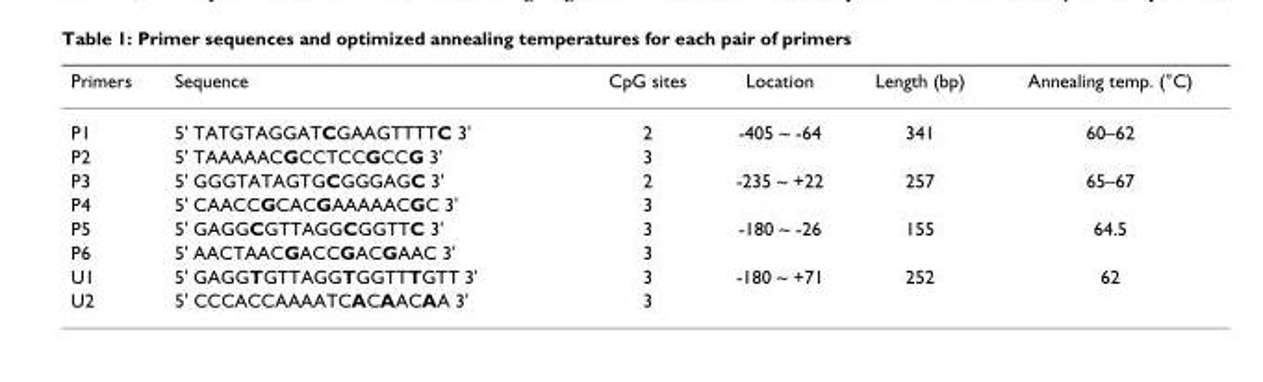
<table><thead><tr><td>Primers</td><td>Sequence</td><td>CpG sites</td><td>Location</td><td>Length (bp)</td><td>Annealing temp. (°C)</td></tr></thead><tbody><tr><td>P1</td><td>5&#x27; TATGTAGGATCGAAGTTTTC 3&#x27;</td><td>2</td><td>-405 ~ -64</td><td>341</td><td>60–62</td></tr><tr><td>P2</td><td>5&#x27; TAAAAACGCCTCCGCCG 3&#x27;</td><td>3</td><td></td><td></td><td></td></tr><tr><td>P3</td><td>5&#x27; GGGTATAGTGCGGGAGC 3&#x27;</td><td>2</td><td>-235 ~ +22</td><td>257</td><td>65–67</td></tr><tr><td>P4</td><td>5&#x27; CAACCGCACGAAAAACGC 3&#x27;</td><td>3</td><td></td><td></td><td></td></tr><tr><td>P5</td><td>5&#x27; GAGGCGTTAGGCGGTTC 3&#x27;</td><td>3</td><td>-180 ~ -26</td><td>155</td><td>64.5</td></tr><tr><td>P6</td><td>5&#x27; AACTAACGACCGACGAAC 3&#x27;</td><td>3</td><td></td><td></td><td></td></tr><tr><td>U1</td><td>5&#x27; GAGGTGTTAGGTGGTTTGTT 3&#x27;</td><td>3</td><td>-180 ~ +71</td><td>252</td><td>62</td></tr><tr><td>U2</td><td>5&#x27; CCCACCAAAATCACAACAA 3&#x27;</td><td>3</td><td></td><td></td><td></td></tr></tbody></table>